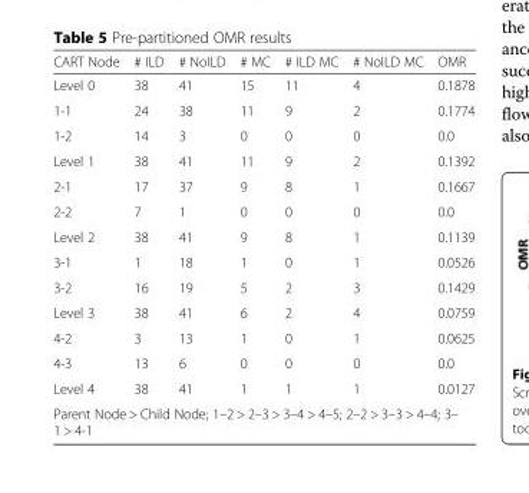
<table><thead><tr><td>CART Node</td><td># ILD</td><td># NoILD</td><td># MC</td><td># ILD MC</td><td># NoILD MC</td><td>OMR</td></tr></thead><tbody><tr><td>Level 0</td><td>38</td><td>41</td><td>15</td><td>11</td><td>4</td><td>0.1878</td></tr><tr><td>1-1</td><td>24</td><td>38</td><td>11</td><td>9</td><td>2</td><td>0.1774</td></tr><tr><td>1-2</td><td>14</td><td>3</td><td>0</td><td>0</td><td>0</td><td>0.0</td></tr><tr><td>Level 1</td><td>38</td><td>41</td><td>11</td><td>9</td><td>2</td><td>0.1392</td></tr><tr><td>2-1</td><td>17</td><td>37</td><td>9</td><td>8</td><td>1</td><td>0.1667</td></tr><tr><td>2-2</td><td>7</td><td>1</td><td>0</td><td>0</td><td>0</td><td>0.0</td></tr><tr><td>Level 2</td><td>38</td><td>41</td><td>9</td><td>8</td><td>1</td><td>0.1139</td></tr><tr><td>3-1</td><td>1</td><td>18</td><td>1</td><td>0</td><td>1</td><td>0.0526</td></tr><tr><td>3-2</td><td>16</td><td>19</td><td>5</td><td>2</td><td>3</td><td>0.1429</td></tr><tr><td>Level 3</td><td>38</td><td>41</td><td>6</td><td>2</td><td>4</td><td>0.0759</td></tr><tr><td>4-2</td><td>3</td><td>13</td><td>1</td><td>0</td><td>1</td><td>0.0625</td></tr><tr><td>4-3</td><td>13</td><td>6</td><td>0</td><td>0</td><td>0</td><td>0.0</td></tr><tr><td>Level 4</td><td>38</td><td>41</td><td>1</td><td>1</td><td>1</td><td>0.0127</td></tr><tr><td colspan="7">Parent Node &gt; Child Node; 1–2 &gt; 2–3 &gt; 3–4 &gt; 4–5; 2–2 &gt; 3–3 &gt; 4–4; 3– 1 &gt; 4-1</td></tr></tbody></table>